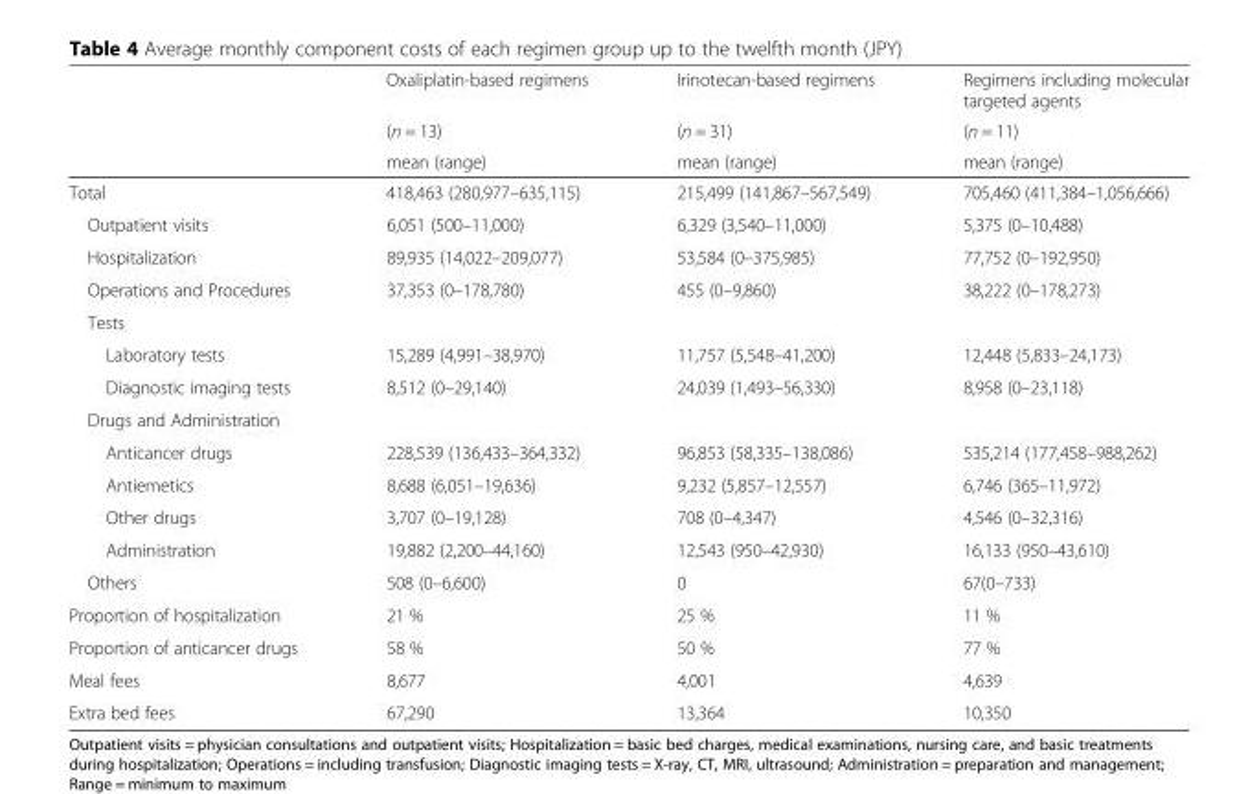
<table><thead><tr><td rowspan="3"></td><td rowspan="3">Oxaliplatin-based regimens (n = 13) mean (range)</td><td rowspan="3">Irinotecan-based regimens (n = 31) mean (range)</td><td rowspan="3">Regimens including molecular targeted agents (n = 11) mean (range)</td></tr><tr></tr><tr></tr></thead><tbody><tr><td>Total</td><td>418,463 (280,977–635,115)</td><td>215,499 (141,867–567,549)</td><td>705,460 (411,384–1,056,666)</td></tr><tr><td>Outpatient visits</td><td>6,051 (500–11,000)</td><td>6,329 (3,540–11,000)</td><td>5,375 (0–10,488)</td></tr><tr><td>Hospitalization</td><td>89,935 (14,022–209,077)</td><td>53,584 (0–375,985)</td><td>77,752 (0–192,950)</td></tr><tr><td>Operations and Procedures</td><td>37,353 (0–178,780)</td><td>455 (0–9,860)</td><td>38,222 (0–178,273)</td></tr><tr><td colspan="4">Tests</td></tr><tr><td>Laboratory tests</td><td>15,289 (4,991–38,970)</td><td>11,757 (5,548–41,200)</td><td>12,448 (5,833–24,173)</td></tr><tr><td>Diagnostic imaging tests</td><td>8,512 (0–29,140)</td><td>24,039 (1,493–56,330)</td><td>8,958 (0–23,118)</td></tr><tr><td colspan="4">Drugs and Administration</td></tr><tr><td>Anticancer drugs</td><td>228,539 (136,433–364,332)</td><td>96,853 (58,335–138,086)</td><td>535,214 (177,458–988,262)</td></tr><tr><td>Antiemetics</td><td>8,688 (6,051–19,636)</td><td>9,232 (5,857–12,557)</td><td>6,746 (365–11,972)</td></tr><tr><td>Other drugs</td><td>3,707 (0–19,128)</td><td>708 (0–4,347)</td><td>4,546 (0–32,316)</td></tr><tr><td>Administration</td><td>19,882 (2,200–44,160)</td><td>12,543 (950–42,930)</td><td>16,133 (950–43,610)</td></tr><tr><td>Others</td><td>508 (0–6,600)</td><td>0</td><td>67(0–733)</td></tr><tr><td>Proportion of hospitalization</td><td>21 %</td><td>25 %</td><td>11 %</td></tr><tr><td>Proportion of anticancer drugs</td><td>58 %</td><td>50 %</td><td>77 %</td></tr><tr><td>Meal fees</td><td>8,677</td><td>4,001</td><td>4,639</td></tr><tr><td>Extra bed fees</td><td>67,290</td><td>13,364</td><td>10,350</td></tr></tbody></table>